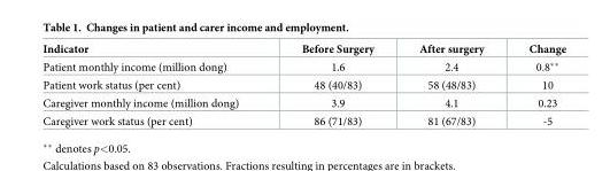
<table><thead><tr><td>Indicator</td><td>Before Surgery</td><td>After surgery</td><td>Change</td></tr></thead><tbody><tr><td>Patient monthly income (million dong)</td><td>1.6</td><td>2.4</td><td>0.8**</td></tr><tr><td>Patient work status (per cent)</td><td>48 (40/83)</td><td>58 (48/83)</td><td>10</td></tr><tr><td>Caregiver monthly income (million dong)</td><td>3.9</td><td>4.1</td><td>0.23</td></tr><tr><td>Caregiver work status (per cent)</td><td>86 (71/83)</td><td>81 (67/83)</td><td>-5</td></tr></tbody></table>